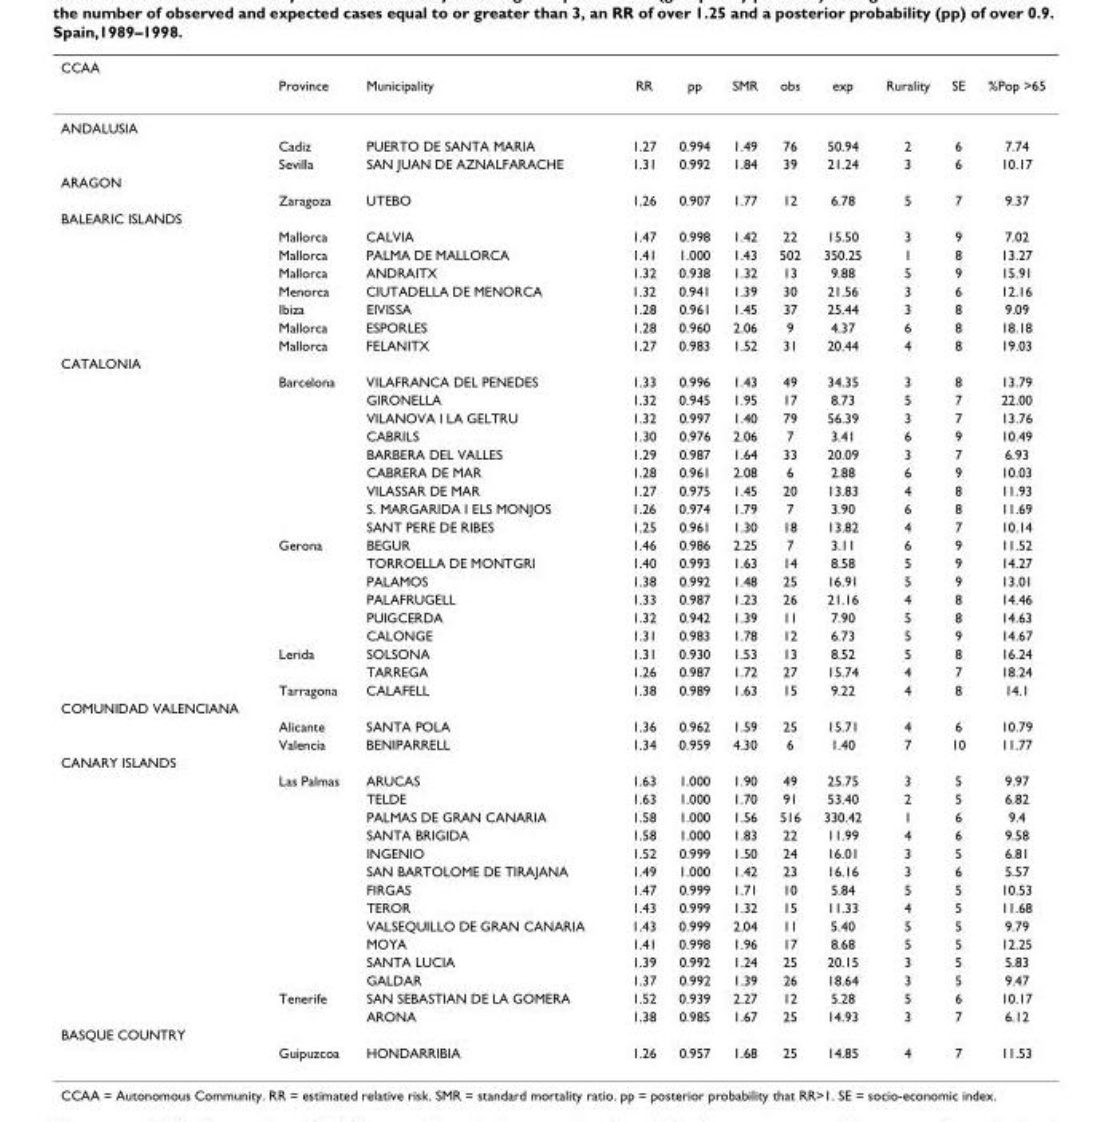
<table><thead><tr><td rowspan="2">CCAA</td><td rowspan="2">Province</td><td rowspan="2">Municipality</td><td rowspan="2">RR</td><td rowspan="2">pp</td><td rowspan="2">SMR</td><td rowspan="2">obs</td><td rowspan="2">exp</td><td rowspan="2">Rurality</td><td rowspan="2">SE</td><td rowspan="2">%Pop &gt;65</td></tr><tr></tr></thead><tbody><tr><td colspan="11">ANDALUSIA</td></tr><tr><td></td><td>Cadiz</td><td>PUERTO DE SANTA MARIA</td><td>1.27</td><td>0.994</td><td>1.49</td><td>76</td><td>50.94</td><td>2</td><td>6</td><td>7.74</td></tr><tr><td></td><td>Sevilla</td><td>SAN JUAN DE AZNALFARACHE</td><td>1.31</td><td>0.992</td><td>1.84</td><td>39</td><td>21.24</td><td>3</td><td>6</td><td>10.17</td></tr><tr><td colspan="11">ARAGON</td></tr><tr><td></td><td>Zaragoza</td><td>UTEBO</td><td>1.26</td><td>0.907</td><td>1.77</td><td>12</td><td>6.78</td><td>5</td><td>7</td><td>9.37</td></tr><tr><td colspan="11">BALEARIC ISLANDS</td></tr><tr><td></td><td>Mallorca</td><td>CALVIA</td><td>1.47</td><td>0.998</td><td>1.42</td><td>22</td><td>15.50</td><td>3</td><td>9</td><td>7.02</td></tr><tr><td></td><td>Mallorca</td><td>PALMA DE MALLORCA</td><td>1.41</td><td>1.000</td><td>1.43</td><td>502</td><td>350.25</td><td>1</td><td>8</td><td>13.27</td></tr><tr><td></td><td>Mallorca</td><td>ANDRAITX</td><td>1.32</td><td>0.938</td><td>1.32</td><td>13</td><td>9.88</td><td>5</td><td>9</td><td>15.91</td></tr><tr><td></td><td>Menorca</td><td>CIUTADELLA DE MENORCA</td><td>1.32</td><td>0.941</td><td>1.39</td><td>30</td><td>21.56</td><td>3</td><td>6</td><td>12.16</td></tr><tr><td></td><td>Ibiza</td><td>EIVISSA</td><td>1.28</td><td>0.961</td><td>1.45</td><td>37</td><td>25.44</td><td>3</td><td>8</td><td>9.09</td></tr><tr><td></td><td>Mallorca</td><td>ESPORLES</td><td>1.28</td><td>0.960</td><td>2.06</td><td>9</td><td>4.37</td><td>6</td><td>8</td><td>18.18</td></tr><tr><td></td><td>Mallorca</td><td>FELANITX</td><td>1.27</td><td>0.983</td><td>1.52</td><td>31</td><td>20.44</td><td>4</td><td>8</td><td>19.03</td></tr><tr><td colspan="11">CATALONIA</td></tr><tr><td></td><td>Barcelona</td><td>VILAFRANCA DEL PENEDES</td><td>1.33</td><td>0.996</td><td>1.43</td><td>49</td><td>34.35</td><td>3</td><td>8</td><td>13.79</td></tr><tr><td></td><td></td><td>GIRONELLA</td><td>1.32</td><td>0.945</td><td>1.95</td><td>17</td><td>8.73</td><td>5</td><td>7</td><td>22.00</td></tr><tr><td></td><td></td><td>VILANOVA I LA GELTRU</td><td>1.32</td><td>0.997</td><td>1.40</td><td>79</td><td>56.39</td><td>3</td><td>7</td><td>13.76</td></tr><tr><td></td><td></td><td>CABRILS</td><td>1.30</td><td>0.976</td><td>2.06</td><td>7</td><td>3.41</td><td>6</td><td>9</td><td>10.49</td></tr><tr><td></td><td></td><td>BARBERA DEL VALLES</td><td>1.29</td><td>0.987</td><td>1.64</td><td>33</td><td>20.09</td><td>3</td><td>7</td><td>6.93</td></tr><tr><td></td><td></td><td>CABRERA DE MAR</td><td>1.28</td><td>0.961</td><td>2.08</td><td>6</td><td>2.88</td><td>6</td><td>9</td><td>10.03</td></tr><tr><td></td><td></td><td>VILASSAR DE MAR</td><td>1.27</td><td>0.975</td><td>1.45</td><td>20</td><td>13.83</td><td>4</td><td>8</td><td>11.93</td></tr><tr><td></td><td></td><td>S. MARGARIDA I ELS MONJOS</td><td>1.26</td><td>0.974</td><td>1.79</td><td>7</td><td>3.90</td><td>6</td><td>8</td><td>11.69</td></tr><tr><td></td><td></td><td>SANT PERE DE RIBES</td><td>1.25</td><td>0.961</td><td>1.30</td><td>18</td><td>13.82</td><td>4</td><td>7</td><td>10.14</td></tr><tr><td></td><td>Gerona</td><td>BEGUR</td><td>1.46</td><td>0.986</td><td>2.25</td><td>7</td><td>3.11</td><td>6</td><td>9</td><td>11.52</td></tr><tr><td></td><td></td><td>TORROELLA DE MONTGRI</td><td>1.40</td><td>0.993</td><td>1.63</td><td>14</td><td>8.58</td><td>5</td><td>9</td><td>14.27</td></tr><tr><td></td><td></td><td>PALAMOS</td><td>1.38</td><td>0.992</td><td>1.48</td><td>25</td><td>16.91</td><td>5</td><td>9</td><td>13.01</td></tr><tr><td></td><td></td><td>PALAFRUGELL</td><td>1.33</td><td>0.987</td><td>1.23</td><td>26</td><td>21.16</td><td>4</td><td>8</td><td>14.46</td></tr><tr><td></td><td></td><td>PUIGCERDA</td><td>1.32</td><td>0.942</td><td>1.39</td><td>11</td><td>7.90</td><td>5</td><td>8</td><td>14.63</td></tr><tr><td></td><td></td><td>CALONGE</td><td>1.31</td><td>0.983</td><td>1.78</td><td>12</td><td>6.73</td><td>5</td><td>9</td><td>14.67</td></tr><tr><td></td><td>Lerida</td><td>SOLSONA</td><td>1.31</td><td>0.930</td><td>1.53</td><td>13</td><td>8.52</td><td>5</td><td>8</td><td>16.24</td></tr><tr><td></td><td></td><td>TARREGA</td><td>1.26</td><td>0.987</td><td>1.72</td><td>27</td><td>15.74</td><td>4</td><td>7</td><td>18.24</td></tr><tr><td></td><td>Tarragona</td><td>CALAFELL</td><td>1.38</td><td>0.989</td><td>1.63</td><td>15</td><td>9.22</td><td>4</td><td>8</td><td>14.1</td></tr><tr><td colspan="11">COMUNIDAD VALENCIANA</td></tr><tr><td></td><td>Alicante</td><td>SANTA POLA</td><td>1.36</td><td>0.962</td><td>1.59</td><td>25</td><td>15.71</td><td>4</td><td>6</td><td>10.79</td></tr><tr><td></td><td>Valencia</td><td>BENIPARRELL</td><td>1.34</td><td>0.959</td><td>4.30</td><td>6</td><td>1.40</td><td>7</td><td>10</td><td>11.77</td></tr><tr><td colspan="11">CANARY ISLANDS</td></tr><tr><td></td><td>Las Palmas</td><td>ARUCAS</td><td>1.63</td><td>1.000</td><td>1.90</td><td>49</td><td>25.75</td><td>3</td><td>5</td><td>9.97</td></tr><tr><td></td><td></td><td>TELDE</td><td>1.63</td><td>1.000</td><td>1.70</td><td>91</td><td>53.40</td><td>2</td><td>5</td><td>6.82</td></tr><tr><td></td><td></td><td>PALMAS DE GRAN CANARIA</td><td>1.58</td><td>1.000</td><td>1.56</td><td>516</td><td>330.42</td><td>1</td><td>6</td><td>9.4</td></tr><tr><td></td><td></td><td>SANTA BRIGIDA</td><td>1.58</td><td>1.000</td><td>1.83</td><td>22</td><td>11.99</td><td>4</td><td>6</td><td>9.58</td></tr><tr><td></td><td></td><td>INGENIO</td><td>1.52</td><td>0.999</td><td>1.50</td><td>24</td><td>16.01</td><td>3</td><td>5</td><td>6.81</td></tr><tr><td></td><td></td><td>SAN BARTOLOME DE TIRAJANA</td><td>1.49</td><td>1.000</td><td>1.42</td><td>23</td><td>16.16</td><td>3</td><td>6</td><td>5.57</td></tr><tr><td></td><td></td><td>FIRGAS</td><td>1.47</td><td>0.999</td><td>1.71</td><td>10</td><td>5.84</td><td>5</td><td>5</td><td>10.53</td></tr><tr><td></td><td></td><td>TEROR</td><td>1.43</td><td>0.999</td><td>1.32</td><td>15</td><td>11.33</td><td>4</td><td>5</td><td>11.68</td></tr><tr><td></td><td></td><td>VALSEQUILLO DE GRAN CANARIA</td><td>1.43</td><td>0.999</td><td>2.04</td><td>11</td><td>5.40</td><td>5</td><td>5</td><td>9.79</td></tr><tr><td></td><td></td><td>MOYA</td><td>1.41</td><td>0.998</td><td>1.96</td><td>17</td><td>8.68</td><td>5</td><td>5</td><td>12.25</td></tr><tr><td></td><td></td><td>SANTA LUCIA</td><td>1.39</td><td>0.992</td><td>1.24</td><td>25</td><td>20.15</td><td>3</td><td>5</td><td>5.83</td></tr><tr><td></td><td></td><td>GALDAR</td><td>1.37</td><td>0.992</td><td>1.39</td><td>26</td><td>18.64</td><td>3</td><td>5</td><td>9.47</td></tr><tr><td></td><td>Tenerife</td><td>SAN SEBASTIAN DE LA GOMERA</td><td>1.52</td><td>0.939</td><td>2.27</td><td>12</td><td>5.28</td><td>5</td><td>6</td><td>10.17</td></tr><tr><td></td><td></td><td>ARONA</td><td>1.38</td><td>0.985</td><td>1.67</td><td>25</td><td>14.93</td><td>3</td><td>7</td><td>6.12</td></tr><tr><td colspan="11">BASQUE COUNTRY</td></tr><tr><td></td><td>Guipuzcoa</td><td>HONDARRIBIA</td><td>1.26</td><td>0.957</td><td>1.68</td><td>25</td><td>14.85</td><td>4</td><td>7</td><td>11.53</td></tr></tbody></table>